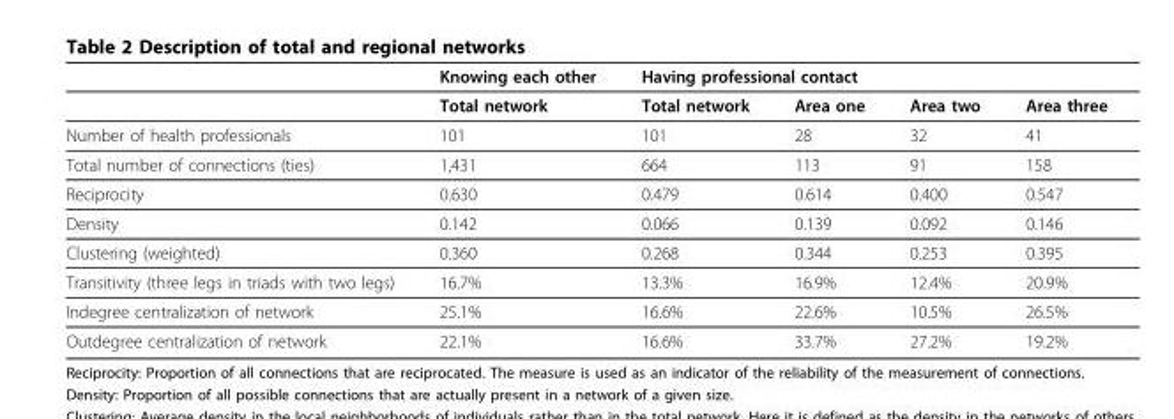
<table><thead><tr><td rowspan="2"></td><td rowspan="2">Knowing each other Total network</td><td colspan="4">Having professional contact</td></tr><tr><td>Total network</td><td>Area one</td><td>Area two</td><td>Area three</td></tr></thead><tbody><tr><td>Number of health professionals</td><td>101</td><td>101</td><td>28</td><td>32</td><td>41</td></tr><tr><td>Total number of connections (ties)</td><td>1,431</td><td>664</td><td>113</td><td>91</td><td>158</td></tr><tr><td>Reciprocity</td><td>0.630</td><td>0.479</td><td>0.614</td><td>0.400</td><td>0.547</td></tr><tr><td>Density</td><td>0.142</td><td>0.066</td><td>0.139</td><td>0.092</td><td>0.146</td></tr><tr><td>Clustering (weighted)</td><td>0.360</td><td>0.268</td><td>0.344</td><td>0.253</td><td>0.395</td></tr><tr><td>Transitivity (three legs in triads with two legs)</td><td>16.7%</td><td>13.3%</td><td>16.9%</td><td>12.4%</td><td>20.9%</td></tr><tr><td>Indegree centralization of network</td><td>25.1%</td><td>16.6%</td><td>22.6%</td><td>10.5%</td><td>26.5%</td></tr><tr><td>Outdegree centralization of network</td><td>22.1%</td><td>16.6%</td><td>33.7%</td><td>27.2%</td><td>19.2%</td></tr></tbody></table>